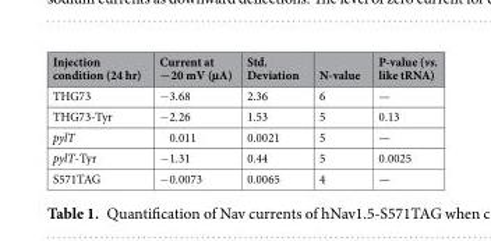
<table><thead><tr><td>Injection condition (24 hr)</td><td>Current at −20 mV (µA)</td><td>Std. Deviation</td><td>N-value</td><td>P-value (vs. like tRNA)</td></tr></thead><tbody><tr><td>THG73</td><td>−3.68</td><td>2.36</td><td>6</td><td>—</td></tr><tr><td>THG73-Tyr</td><td>−2.26</td><td>1.53</td><td>5</td><td>0.13</td></tr><tr><td>pylT</td><td>0.011</td><td>0.0021</td><td>5</td><td>—</td></tr><tr><td>pylT-Tyr</td><td>−1.31</td><td>0.44</td><td>5</td><td>0.0025</td></tr><tr><td>S571TAG</td><td>−0.0073</td><td>0.0065</td><td>4</td><td>—</td></tr></tbody></table>